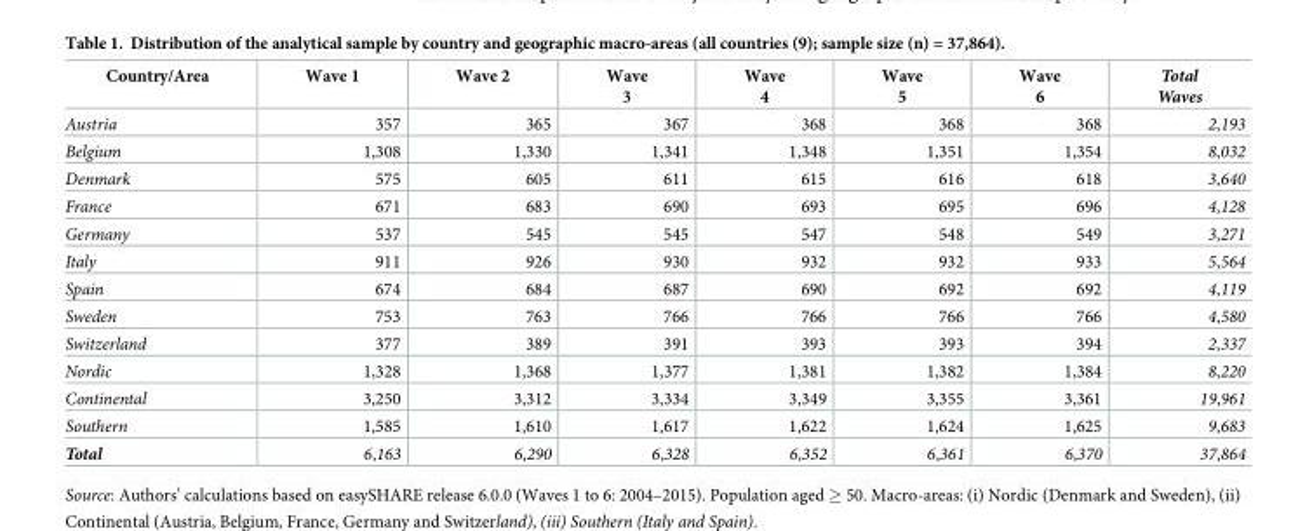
<table><thead><tr><td>Country/Area</td><td>Wave 1</td><td>Wave 2</td><td>Wave 3</td><td>Wave 4</td><td>Wave 5</td><td>Wave 6</td><td>Total Waves</td></tr></thead><tbody><tr><td>Austria</td><td>357</td><td>365</td><td>367</td><td>368</td><td>368</td><td>368</td><td>2,193</td></tr><tr><td>Belgium</td><td>1,308</td><td>1,330</td><td>1,341</td><td>1,348</td><td>1,351</td><td>1,354</td><td>8,032</td></tr><tr><td>Denmark</td><td>575</td><td>605</td><td>611</td><td>615</td><td>616</td><td>618</td><td>3,640</td></tr><tr><td>France</td><td>671</td><td>683</td><td>690</td><td>693</td><td>695</td><td>696</td><td>4,128</td></tr><tr><td>Germany</td><td>537</td><td>545</td><td>545</td><td>547</td><td>548</td><td>549</td><td>3,271</td></tr><tr><td>Italy</td><td>911</td><td>926</td><td>930</td><td>932</td><td>932</td><td>933</td><td>5,564</td></tr><tr><td>Spain</td><td>674</td><td>684</td><td>687</td><td>690</td><td>692</td><td>692</td><td>4,119</td></tr><tr><td>Sweden</td><td>753</td><td>763</td><td>766</td><td>766</td><td>766</td><td>766</td><td>4,580</td></tr><tr><td>Switzerland</td><td>377</td><td>389</td><td>391</td><td>393</td><td>393</td><td>394</td><td>2,337</td></tr><tr><td>Nordic</td><td>1,328</td><td>1,368</td><td>1,377</td><td>1,381</td><td>1,382</td><td>1,384</td><td>8,220</td></tr><tr><td>Continental</td><td>3,250</td><td>3,312</td><td>3,334</td><td>3,349</td><td>3,355</td><td>3,361</td><td>19,961</td></tr><tr><td>Southern</td><td>1,585</td><td>1,610</td><td>1,617</td><td>1,622</td><td>1,624</td><td>1,625</td><td>9,683</td></tr><tr><td>Total</td><td>6,163</td><td>6,290</td><td>6,328</td><td>6,352</td><td>6,361</td><td>6,370</td><td>37,864</td></tr></tbody></table>